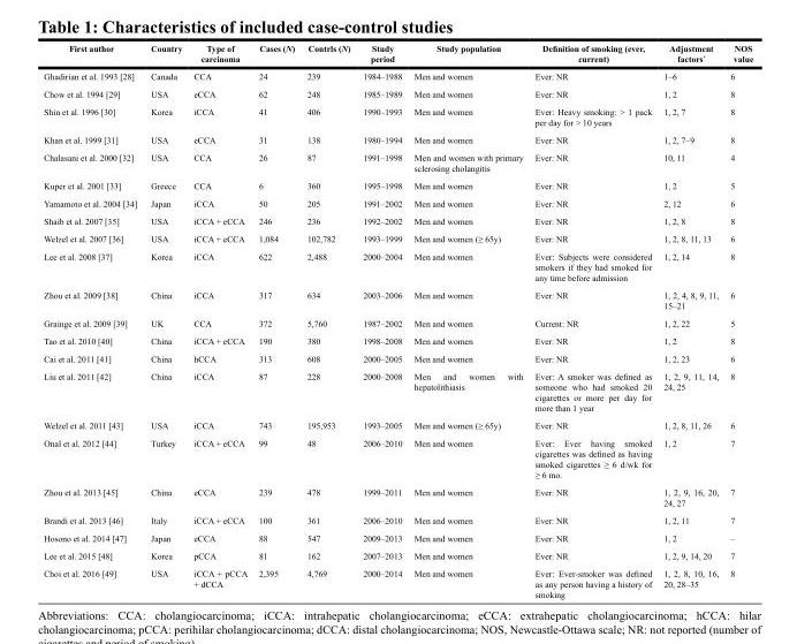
<table><thead><tr><td>First author</td><td>Country</td><td>Type of carcinoma</td><td>Cases (N)</td><td>Contrls (N)</td><td>Study period</td><td>Study population</td><td>Definition of smoking (ever, current)</td><td>Adjustment factors*</td><td>NOS value</td></tr></thead><tbody><tr><td>Ghadirian et al. 1993 [28]</td><td>Canada</td><td>CCA</td><td>24</td><td>239</td><td>1984–1988</td><td>Men and women</td><td>Ever: NR</td><td>1–6</td><td>6</td></tr><tr><td>Chow et al. 1994 [29]</td><td>USA</td><td>eCCA</td><td>62</td><td>248</td><td>1985–1989</td><td>Men and women</td><td>Ever: NR</td><td>1, 2</td><td>8</td></tr><tr><td>Shin et al. 1996 [30]</td><td>Korea</td><td>iCCA</td><td>41</td><td>406</td><td>1990–1993</td><td>Men and women</td><td>Ever: Heavy smoking: &gt; 1 pack per day for &gt; 10 years</td><td>1, 2, 7</td><td>8</td></tr><tr><td>Khan et al. 1999 [31]</td><td>USA</td><td>eCCA</td><td>31</td><td>138</td><td>1980–1994</td><td>Men and women</td><td>Ever: NR</td><td>1, 2, 7–9</td><td>8</td></tr><tr><td>Chalasani et al. 2000 [32]</td><td>USA</td><td>CCA</td><td>26</td><td>87</td><td>1991–1998</td><td>Men and women with primary sclerosing cholangitis</td><td>Ever: NR</td><td>10, 11</td><td>4</td></tr><tr><td>Kuper et al. 2001 [33]</td><td>Greece</td><td>CCA</td><td>6</td><td>360</td><td>1995–1998</td><td>Men and women</td><td>Ever: NR</td><td>1, 2</td><td>5</td></tr><tr><td>Yamamoto et al. 2004 [34]</td><td>Japan</td><td>iCCA</td><td>50</td><td>205</td><td>1991–2002</td><td>Men and women</td><td>Ever: NR</td><td>2, 12</td><td>6</td></tr><tr><td>Shaib et al. 2007 [35]</td><td>USA</td><td>iCCA + eCCA</td><td>246</td><td>236</td><td>1992–2002</td><td>Men and women</td><td>Ever: NR</td><td>1, 2, 8</td><td>8</td></tr><tr><td>Welzel et al. 2007 [36]</td><td>USA</td><td>iCCA + eCCA</td><td>1,084</td><td>102,782</td><td>1993–1999</td><td>Men and women (≥ 65y)</td><td>Ever: NR</td><td>1, 2, 8, 11, 13</td><td>6</td></tr><tr><td>Lee et al. 2008 [37]</td><td>Korea</td><td>iCCA</td><td>622</td><td>2,488</td><td>2000–2004</td><td>Men and women</td><td>Ever: Subjects were considered smokers if they had smoked for any time before admission</td><td>1, 2, 14</td><td>8</td></tr><tr><td>Zhou et al. 2009 [38]</td><td>China</td><td>iCCA</td><td>317</td><td>634</td><td>2003–2006</td><td>Men and women</td><td>Ever: NR</td><td>1, 2, 4, 8, 9, 11, 15–21</td><td>6</td></tr><tr><td>Grainge et al. 2009 [39]</td><td>UK</td><td>CCA</td><td>372</td><td>5,760</td><td>1987–2002</td><td>Men and women</td><td>Current: NR</td><td>1, 2, 22</td><td>5</td></tr><tr><td>Tao et al. 2010 [40]</td><td>China</td><td>iCCA + eCCA</td><td>190</td><td>380</td><td>1998–2008</td><td>Men and women</td><td>Ever: NR</td><td>1, 2</td><td>8</td></tr><tr><td>Cai et al. 2011 [41]</td><td>China</td><td>hCCA</td><td>313</td><td>608</td><td>2000–2005</td><td>Men and women</td><td>Ever: NR</td><td>1, 2, 23</td><td>6</td></tr><tr><td>Liu et al. 2011 [42]</td><td>China</td><td>iCCA</td><td>87</td><td>228</td><td>2000–2008</td><td>Men and women with hepatolithiasis</td><td>Ever: A smoker was defined as someone who had smoked 20 cigarettes or more per day for more than 1 year</td><td>1, 2, 9, 11, 14, 24, 25</td><td>8</td></tr><tr><td>Welzel et al. 2011 [43]</td><td>USA</td><td>iCCA</td><td>743</td><td>195,953</td><td>1993–2005</td><td>Men and women (≥ 65y)</td><td>Ever: NR</td><td>1, 2, 8, 11, 26</td><td>6</td></tr><tr><td>Onal et al. 2012 [44]</td><td>Turkey</td><td>iCCA + eCCA</td><td>99</td><td>48</td><td>2006–2010</td><td>Men and women</td><td>Ever: Ever having smoked cigarettes was defined as having smoked cigarettes ≥ 6 d/wk for ≥ 6 mo.</td><td>1, 2</td><td>7</td></tr><tr><td>Zhou et al. 2013 [45]</td><td>China</td><td>eCCA</td><td>239</td><td>478</td><td>1999–2011</td><td>Men and women</td><td>Ever: NR</td><td>1, 2, 9, 16, 20, 24, 27</td><td>7</td></tr><tr><td>Brandi et al. 2013 [46]</td><td>Italy</td><td>iCCA + eCCA</td><td>100</td><td>361</td><td>2006–2010</td><td>Men and women</td><td>Ever: NR</td><td>1, 2, 11</td><td>7</td></tr><tr><td>Hosono et al. 2014 [47]</td><td>Japan</td><td>eCCA</td><td>88</td><td>547</td><td>2009–2013</td><td>Men and women</td><td>Ever: NR</td><td>1, 2</td><td>–</td></tr><tr><td>Lee et al. 2015 [48]</td><td>Korea</td><td>pCCA</td><td>81</td><td>162</td><td>2007–2013</td><td>Men and women</td><td>Ever: NR</td><td>1, 2, 9, 14, 20</td><td>7</td></tr><tr><td>Choi et al. 2016 [49]</td><td>USA</td><td>iCCA + pCCA + dCCA</td><td>2,395</td><td>4,769</td><td>2000–2014</td><td>Men and women</td><td>Ever: Ever-smoker was defined as any person having a history of smoking</td><td>1, 2, 8, 10, 16, 20, 28–35</td><td>8</td></tr></tbody></table>